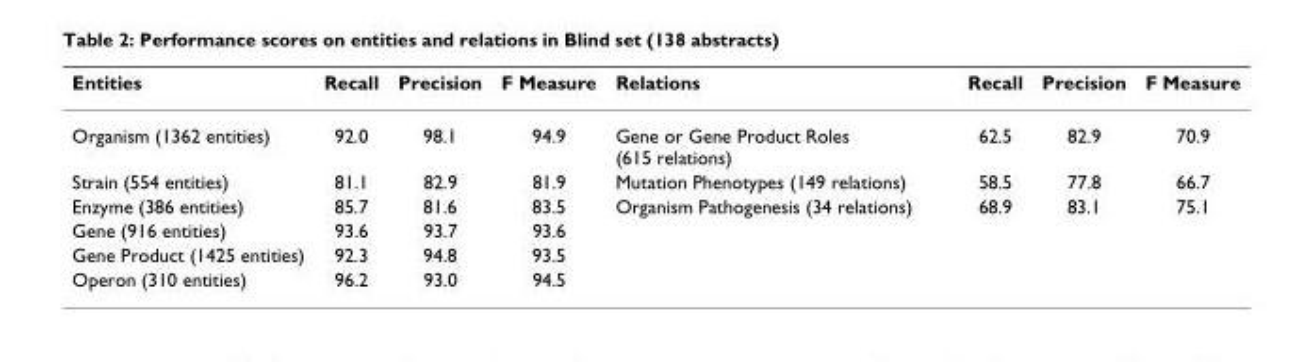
<table><thead><tr><td>Entities</td><td>Recall</td><td>Precision</td><td>F Measure</td><td>Relations</td><td>Recall</td><td>Precision</td><td>F Measure</td></tr></thead><tbody><tr><td>Organism (1362 entities)</td><td>92.0</td><td>98.1</td><td>94.9</td><td>Gene or Gene Product Roles (615 relations)</td><td>62.5</td><td>82.9</td><td>70.9</td></tr><tr><td>Strain (554 entities)</td><td>81.1</td><td>82.9</td><td>81.9</td><td>Mutation Phenotypes (149 relations)</td><td>58.5</td><td>77.8</td><td>66.7</td></tr><tr><td>Enzyme (386 entities)</td><td>85.7</td><td>81.6</td><td>83.5</td><td>Organism Pathogenesis (34 relations)</td><td>68.9</td><td>83.1</td><td>75.1</td></tr><tr><td>Gene (916 entities)</td><td>93.6</td><td>93.7</td><td>93.6</td><td></td><td></td><td></td><td></td></tr><tr><td>Gene Product (1425 entities)</td><td>92.3</td><td>94.8</td><td>93.5</td><td></td><td></td><td></td><td></td></tr><tr><td>Operon (310 entities)</td><td>96.2</td><td>93.0</td><td>94.5</td><td></td><td></td><td></td><td></td></tr></tbody></table>